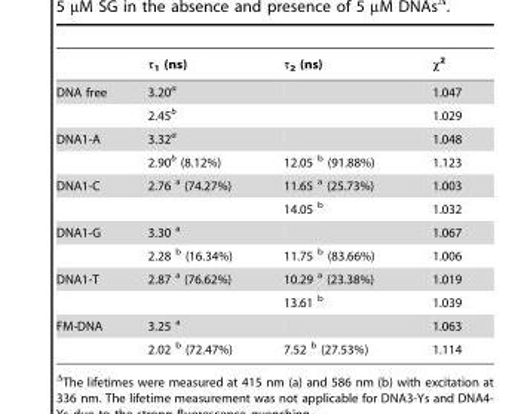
<table><thead><tr><td></td><td>τ<sub>1</sub> (ns)</td><td>τ<sub>2</sub> (ns)</td><td>χ<sup>2</sup></td></tr></thead><tbody><tr><td rowspan="2">DNA free</td><td>3.20<sup>a</sup></td><td></td><td>1.047</td></tr><tr><td>2.45<sup>b</sup></td><td></td><td>1.029</td></tr><tr><td rowspan="2">DNA1-A</td><td>3.32<sup>a</sup></td><td></td><td>1.048</td></tr><tr><td>2.90<sup>b</sup> (8.12%)</td><td>12.05 <sup>b</sup> (91.88%)</td><td>1.123</td></tr><tr><td rowspan="2">DNA1-C</td><td>2.76 <sup>a</sup> (74.27%)</td><td>11.65 <sup>a</sup> (25.73%)</td><td>1.003</td></tr><tr><td></td><td>14.05 <sup>b</sup></td><td>1.032</td></tr><tr><td rowspan="2">DNA1-G</td><td>3.30 <sup>a</sup></td><td></td><td>1.067</td></tr><tr><td>2.28 <sup>b</sup> (16.34%)</td><td>11.75 <sup>b</sup> (83.66%)</td><td>1.006</td></tr><tr><td rowspan="2">DNA1-T</td><td>2.87 <sup>a</sup> (76.62%)</td><td>10.29 <sup>a</sup> (23.38%)</td><td>1.019</td></tr><tr><td></td><td>13.61 <sup>b</sup></td><td>1.039</td></tr><tr><td rowspan="2">FM-DNA</td><td>3.25 <sup>a</sup></td><td></td><td>1.063</td></tr><tr><td>2.02 <sup>b</sup> (72.47%)</td><td>7.52 <sup>b</sup> (27.53%)</td><td>1.114</td></tr></tbody></table>